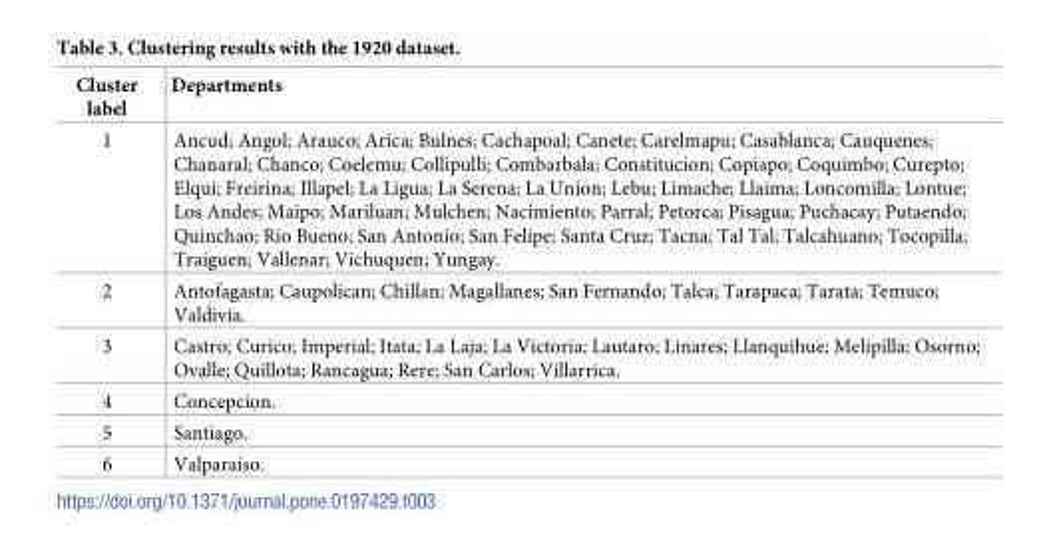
<table><thead><tr><td>Cluster label</td><td>Departments</td></tr></thead><tbody><tr><td>1</td><td>Ancud; Angol; Arauco; Arica; Bulnes; Cachapoal; Canete; Carelmapu; Casablanca; Cauquenes; Chanaral; Chanco; Coelemu; Collipulli; Combarbala; Constitucion; Copiapo; Coquimbo; Curepto; Elqui; Freirina; Illapel; La Ligua; La Serena; La Union; Lebu; Limache; Llaima; Loncomilla; Lontue; Los Andes; Maipo; Mariluan; Mulchen; Nacimiento; Parral; Petorca; Pisagua; Puchacay; Putaendo; Quinchao; Rio Bueno; San Antonio; San Felipe; Santa Cruz; Tacna; Tal Tal; Talcahuano; Tocopilla; Traiguen; Vallenar; Vichuquen; Yungay.</td></tr><tr><td>2</td><td>Antofagasta; Caupolican; Chillan; Magallanes; San Fernando; Talca; Tarapaca; Tarata; Temuco; Valdivia.</td></tr><tr><td>3</td><td>Castro; Curico; Imperial; Itata; La Laja; La Victoria; Lautaro; Linares; Llanquihue; Melipilla; Osorno; Ovalle; Quillota; Rancagua; Rere; San Carlos; Villarrica.</td></tr><tr><td>4</td><td>Concepcion.</td></tr><tr><td>5</td><td>Santiago.</td></tr><tr><td>6</td><td>Valparaiso.</td></tr></tbody></table>